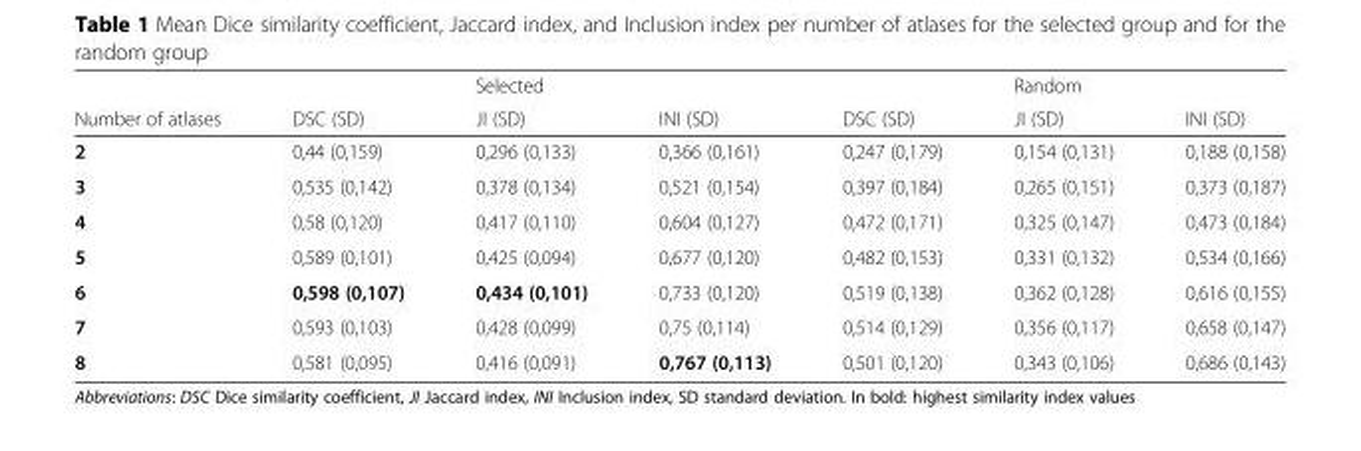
<table><thead><tr><td rowspan="2">Number of atlases</td><td rowspan="2">DSC (SD)</td><td rowspan="2">Selected JI (SD)</td><td rowspan="2">INI (SD)</td><td rowspan="2">DSC (SD)</td><td rowspan="2">Random JI (SD)</td><td rowspan="2">INI (SD)</td></tr><tr></tr></thead><tbody><tr><td>2</td><td>0,44 (0,159)</td><td>0,296 (0,133)</td><td>0,366 (0,161)</td><td>0,247 (0,179)</td><td>0,154 (0,131)</td><td>0,188 (0,158)</td></tr><tr><td>3</td><td>0,535 (0,142)</td><td>0,378 (0,134)</td><td>0,521 (0,154)</td><td>0,397 (0,184)</td><td>0,265 (0,151)</td><td>0,373 (0,187)</td></tr><tr><td>4</td><td>0,58 (0,120)</td><td>0,417 (0,110)</td><td>0,604 (0,127)</td><td>0,472 (0,171)</td><td>0,325 (0,147)</td><td>0,473 (0,184)</td></tr><tr><td>5</td><td>0,589 (0,101)</td><td>0,425 (0,094)</td><td>0,677 (0,120)</td><td>0,482 (0,153)</td><td>0,331 (0,132)</td><td>0,534 (0,166)</td></tr><tr><td>6</td><td>0,598 (0,107)</td><td>0,434 (0,101)</td><td>0,733 (0,120)</td><td>0,519 (0,138)</td><td>0,362 (0,128)</td><td>0,616 (0,155)</td></tr><tr><td>7</td><td>0,593 (0,103)</td><td>0,428 (0,099)</td><td>0,75 (0,114)</td><td>0,514 (0,129)</td><td>0,356 (0,117)</td><td>0,658 (0,147)</td></tr><tr><td>8</td><td>0,581 (0,095)</td><td>0,416 (0,091)</td><td>0,767 (0,113)</td><td>0,501 (0,120)</td><td>0,343 (0,106)</td><td>0,686 (0,143)</td></tr></tbody></table>